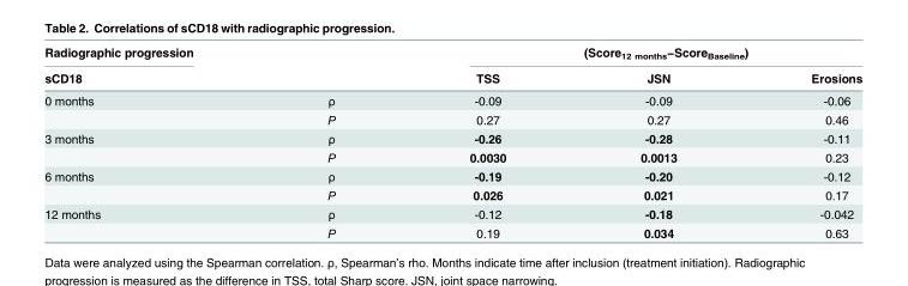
<table><thead><tr><td rowspan="2">Radiographic progression sCD18</td><td rowspan="2"></td><td colspan="3">(Score<sub>12 months</sub>−Score<sub>Baseline</sub>)</td></tr><tr><td>TSS</td><td>JSN</td><td>Erosions</td></tr></thead><tbody><tr><td rowspan="2">0 months</td><td>ρ</td><td>-0.09</td><td>-0.09</td><td>-0.06</td></tr><tr><td>P</td><td>0.27</td><td>0.27</td><td>0.46</td></tr><tr><td rowspan="2">3 months</td><td>ρ</td><td>-0.26</td><td>-0.28</td><td>-0.11</td></tr><tr><td>P</td><td>0.0030</td><td>0.0013</td><td>0.23</td></tr><tr><td rowspan="2">6 months</td><td>ρ</td><td>-0.19</td><td>-0.20</td><td>-0.12</td></tr><tr><td>P</td><td>0.026</td><td>0.021</td><td>0.17</td></tr><tr><td rowspan="2">12 months</td><td>ρ</td><td>-0.12</td><td>-0.18</td><td>-0.042</td></tr><tr><td>P</td><td>0.19</td><td>0.034</td><td>0.63</td></tr></tbody></table>